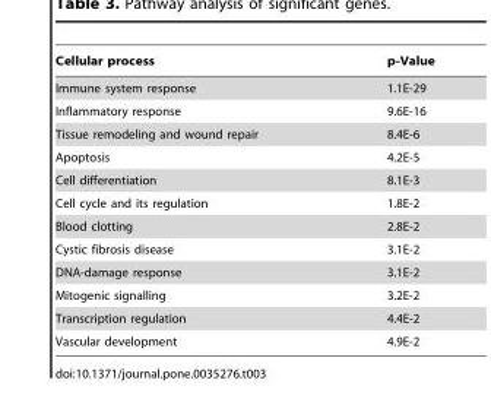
<table><thead><tr><td>Cellular process</td><td>p-Value</td></tr></thead><tbody><tr><td>Immune system response</td><td>1.1E-29</td></tr><tr><td>Inflammatory response</td><td>9.6E-16</td></tr><tr><td>Tissue remodeling and wound repair</td><td>8.4E-6</td></tr><tr><td>Apoptosis</td><td>4.2E-5</td></tr><tr><td>Cell differentiation</td><td>8.1E-3</td></tr><tr><td>Cell cycle and its regulation</td><td>1.8E-2</td></tr><tr><td>Blood clotting</td><td>2.8E-2</td></tr><tr><td>Cystic fibrosis disease</td><td>3.1E-2</td></tr><tr><td>DNA-damage response</td><td>3.1E-2</td></tr><tr><td>Mitogenic signalling</td><td>3.2E-2</td></tr><tr><td>Transcription regulation</td><td>4.4E-2</td></tr><tr><td>Vascular development</td><td>4.9E-2</td></tr></tbody></table>